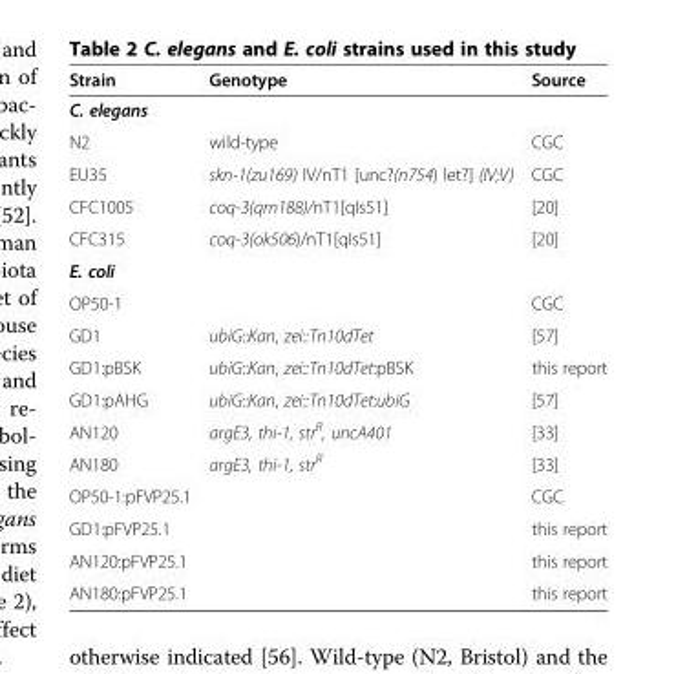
<table><thead><tr><td>Strain</td><td>Genotype</td><td>Source</td></tr></thead><tbody><tr><td colspan="3">C. elegans</td></tr><tr><td>N2</td><td>wild-type</td><td>CGC</td></tr><tr><td>EU35</td><td>skn-1(zu169) IV/nT1 [unc?(n754) let?] (IV;V)</td><td>CGC</td></tr><tr><td>CFC1005</td><td>coq-3(qm188)/nT1[qIs51]</td><td>[20]</td></tr><tr><td>CFC315</td><td>coq-3(ok506)/nT1[qIs51]</td><td>[20]</td></tr><tr><td colspan="3">E. coli</td></tr><tr><td>OP50-1</td><td></td><td>CGC</td></tr><tr><td>GD1</td><td>ubiG::Kan, zei::Tn10dTet</td><td>[57]</td></tr><tr><td>GD1:pBSK</td><td>ubiG::Kan, zei::Tn10dTet:pBSK</td><td>this report</td></tr><tr><td>GD1:pAHG</td><td>ubiG::Kan, zei::Tn10dTet:ubiG</td><td>[57]</td></tr><tr><td>AN120</td><td>argE3, thi-1, str<sup>R</sup>, uncA401</td><td>[33]</td></tr><tr><td>AN180</td><td>argE3, thi-1, str<sup>R</sup></td><td>[33]</td></tr><tr><td>OP50-1:pFVP25.1</td><td></td><td>CGC</td></tr><tr><td>GD1:pFVP25.1</td><td></td><td>this report</td></tr><tr><td>AN120:pFVP25.1</td><td></td><td>this report</td></tr><tr><td>AN180:pFVP25.1</td><td></td><td>this report</td></tr></tbody></table>